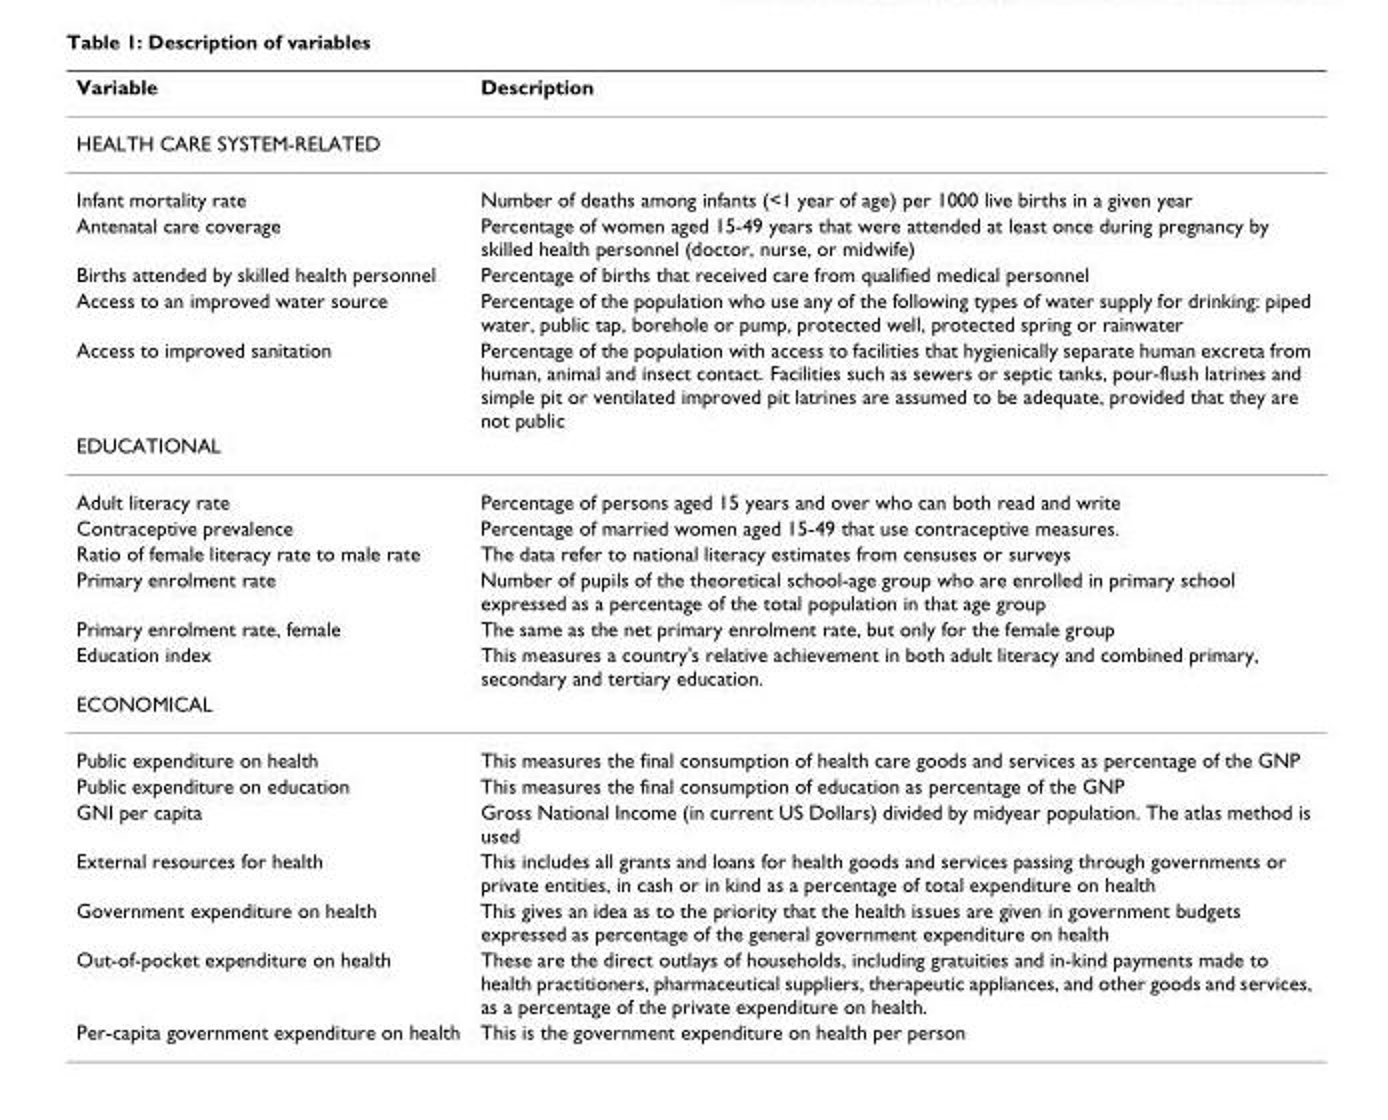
<table><thead><tr><td>Variable</td><td>Description</td></tr></thead><tbody><tr><td colspan="2">HEALTH CARE SYSTEM-RELATED</td></tr><tr><td>Infant mortality rate</td><td>Number of deaths among infants (&lt;1 year of age) per 1000 live births in a given year</td></tr><tr><td>Antenatal care coverage</td><td>Percentage of women aged 15-49 years that were attended at least once during pregnancy by skilled health personnel (doctor, nurse, or midwife)</td></tr><tr><td>Births attended by skilled health personnel</td><td>Percentage of births that received care from qualified medical personnel</td></tr><tr><td>Access to an improved water source</td><td>Percentage of the population who use any of the following types of water supply for drinking: piped water, public tap, borehole or pump, protected well, protected spring or rainwater</td></tr><tr><td>Access to improved sanitation</td><td>Percentage of the population with access to facilities that hygienically separate human excreta from human, animal and insect contact. Facilities such as sewers or septic tanks, pour-flush latrines and simple pit or ventilated improved pit latrines are assumed to be adequate, provided that they are not public</td></tr><tr><td colspan="2">EDUCATIONAL</td></tr><tr><td>Adult literacy rate</td><td>Percentage of persons aged 15 years and over who can both read and write</td></tr><tr><td>Contraceptive prevalence</td><td>Percentage of married women aged 15-49 that use contraceptive measures.</td></tr><tr><td>Ratio of female literacy rate to male rate</td><td>The data refer to national literacy estimates from censuses or surveys</td></tr><tr><td>Primary enrolment rate</td><td>Number of pupils of the theoretical school-age group who are enrolled in primary school expressed as a percentage of the total population in that age group</td></tr><tr><td>Primary enrolment rate, female</td><td>The same as the net primary enrolment rate, but only for the female group</td></tr><tr><td>Education index</td><td>This measures a country&#x27;s relative achievement in both adult literacy and combined primary, secondary and tertiary education.</td></tr><tr><td colspan="2">ECONOMICAL</td></tr><tr><td>Public expenditure on health</td><td>This measures the final consumption of health care goods and services as percentage of the GNP</td></tr><tr><td>Public expenditure on education</td><td>This measures the final consumption of education as percentage of the GNP</td></tr><tr><td>GNI per capita</td><td>Gross National Income (in current US Dollars) divided by midyear population. The atlas method is used</td></tr><tr><td>External resources for health</td><td>This includes all grants and loans for health goods and services passing through governments or private entities, in cash or in kind as a percentage of total expenditure on health</td></tr><tr><td>Government expenditure on health</td><td>This gives an idea as to the priority that the health issues are given in government budgets expressed as percentage of the general government expenditure on health</td></tr><tr><td>Out-of-pocket expenditure on health</td><td>These are the direct outlays of households, including gratuities and in-kind payments made to health practitioners, pharmaceutical suppliers, therapeutic appliances, and other goods and services, as a percentage of the private expenditure on health.</td></tr><tr><td>Per-capita government expenditure on health</td><td>This is the government expenditure on health per person</td></tr></tbody></table>